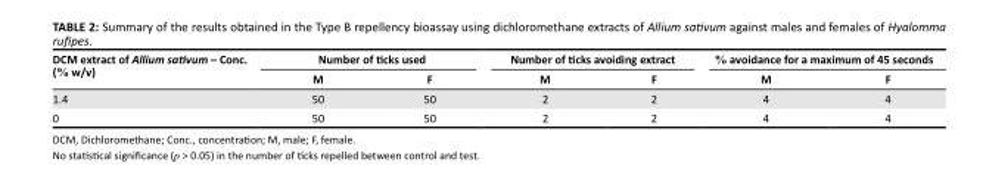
<table><thead><tr><td rowspan="2">DCM extract of Allium sativum – Conc. (% w/v)</td><td colspan="2">Number of ticks used</td><td colspan="2">Number of ticks avoiding extract</td><td colspan="2">% avoidance for a maximum of 45 seconds</td></tr><tr><td>M</td><td>F</td><td>M</td><td>F</td><td>M</td><td>F</td></tr></thead><tbody><tr><td>1.4</td><td>50</td><td>50</td><td>2</td><td>2</td><td>4</td><td>4</td></tr><tr><td>0</td><td>50</td><td>50</td><td>2</td><td>2</td><td>4</td><td>4</td></tr></tbody></table>